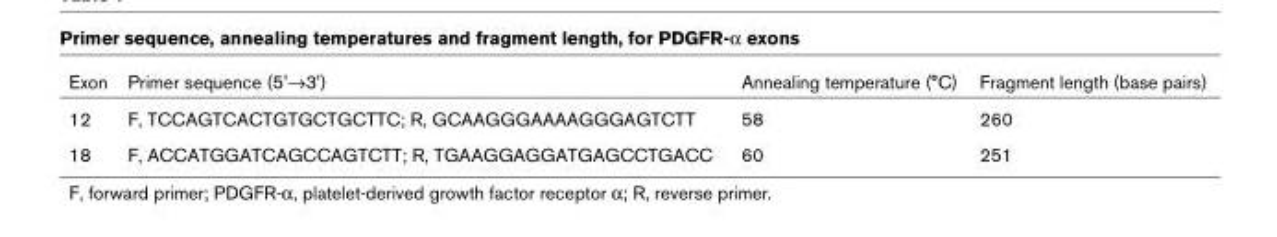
<table><thead><tr><td>Exon</td><td>Primer sequence (5&#x27;→3&#x27;)</td><td>Annealing temperature (°C)</td><td>Fragment length (base pairs)</td></tr></thead><tbody><tr><td>12</td><td>F, TCCAGTCACTGTGCTGCTTC; R, GCAAGGGAAAAGGGAGTCTT</td><td>58</td><td>260</td></tr><tr><td>18</td><td>F, ACCATGGATCAGCCAGTCTT; R, TGAAGGAGGATGAGCCTGACC</td><td>60</td><td>251</td></tr></tbody></table>